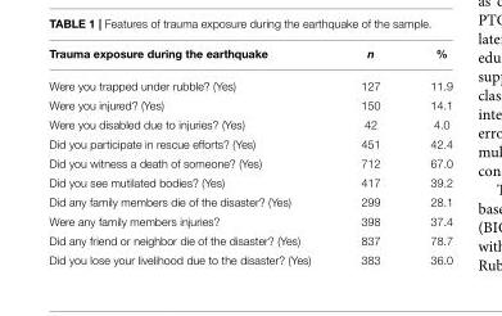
<table><thead><tr><td>Trauma exposure during the earthquake</td><td>n</td><td>%</td></tr></thead><tbody><tr><td>Were you trapped under rubble? (Yes)</td><td>127</td><td>11.9</td></tr><tr><td>Were you injured? (Yes)</td><td>150</td><td>14.1</td></tr><tr><td>Were you disabled due to injuries? (Yes)</td><td>42</td><td>4.0</td></tr><tr><td>Did you participate in rescue efforts? (Yes)</td><td>451</td><td>42.4</td></tr><tr><td>Did you witness a death of someone? (Yes)</td><td>712</td><td>67.0</td></tr><tr><td>Did you see mutilated bodies? (Yes)</td><td>417</td><td>39.2</td></tr><tr><td>Did any family members die of the disaster? (Yes)</td><td>299</td><td>28.1</td></tr><tr><td>Were any family members injuries?</td><td>398</td><td>37.4</td></tr><tr><td>Did any friend or neighbor die of the disaster? (Yes)</td><td>837</td><td>78.7</td></tr><tr><td>Did you lose your livelihood due to the disaster? (Yes)</td><td>383</td><td>36.0</td></tr></tbody></table>